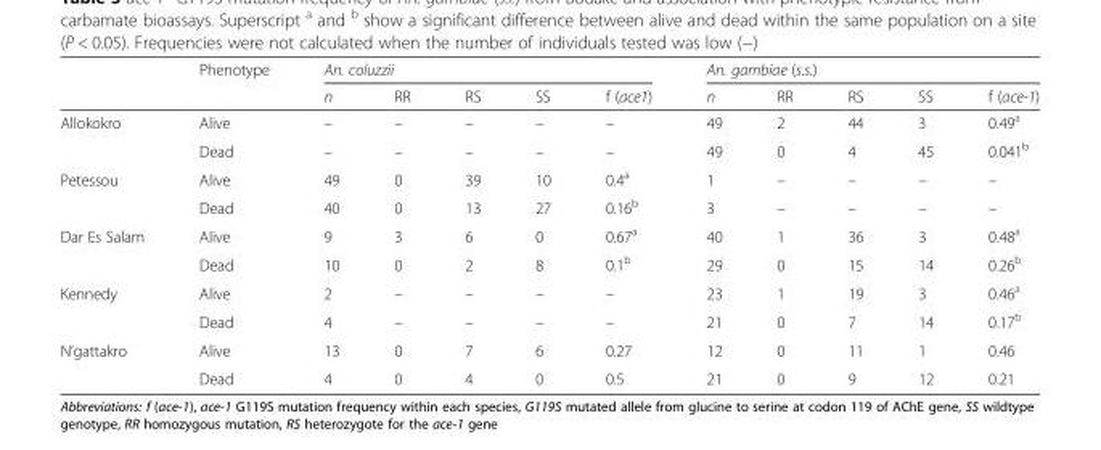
<table><thead><tr><td rowspan="2"></td><td rowspan="2">Phenotype</td><td colspan="5">An. coluzzii</td><td colspan="5">An. gambiae (s.s.)</td></tr><tr><td>n</td><td>RR</td><td>RS</td><td>SS</td><td>f (ace1)</td><td>n</td><td>RR</td><td>RS</td><td>SS</td><td>f (ace-1)</td></tr></thead><tbody><tr><td rowspan="2">Allokokro</td><td>Alive</td><td>–</td><td>–</td><td>–</td><td>–</td><td>–</td><td>49</td><td>2</td><td>44</td><td>3</td><td>0.49<sup>a</sup></td></tr><tr><td>Dead</td><td>–</td><td>–</td><td>–</td><td>–</td><td>–</td><td>49</td><td>0</td><td>4</td><td>45</td><td>0.041<sup>b</sup></td></tr><tr><td rowspan="2">Petessou</td><td>Alive</td><td>49</td><td>0</td><td>39</td><td>10</td><td>0.4<sup>a</sup></td><td>1</td><td>–</td><td>–</td><td>–</td><td>–</td></tr><tr><td>Dead</td><td>40</td><td>0</td><td>13</td><td>27</td><td>0.16<sup>b</sup></td><td>3</td><td>–</td><td>–</td><td>–</td><td>–</td></tr><tr><td rowspan="2">Dar Es Salam</td><td>Alive</td><td>9</td><td>3</td><td>6</td><td>0</td><td>0.67<sup>a</sup></td><td>40</td><td>1</td><td>36</td><td>3</td><td>0.48<sup>a</sup></td></tr><tr><td>Dead</td><td>10</td><td>0</td><td>2</td><td>8</td><td>0.1<sup>b</sup></td><td>29</td><td>0</td><td>15</td><td>14</td><td>0.26<sup>b</sup></td></tr><tr><td rowspan="2">Kennedy</td><td>Alive</td><td>2</td><td>–</td><td>–</td><td>–</td><td>–</td><td>23</td><td>1</td><td>19</td><td>3</td><td>0.46<sup>a</sup></td></tr><tr><td>Dead</td><td>4</td><td>–</td><td>–</td><td>–</td><td>–</td><td>21</td><td>0</td><td>7</td><td>14</td><td>0.17<sup>b</sup></td></tr><tr><td rowspan="2">N’gattakro</td><td>Alive</td><td>13</td><td>0</td><td>7</td><td>6</td><td>0.27</td><td>12</td><td>0</td><td>11</td><td>1</td><td>0.46</td></tr><tr><td>Dead</td><td>4</td><td>0</td><td>4</td><td>0</td><td>0.5</td><td>21</td><td>0</td><td>9</td><td>12</td><td>0.21</td></tr></tbody></table>